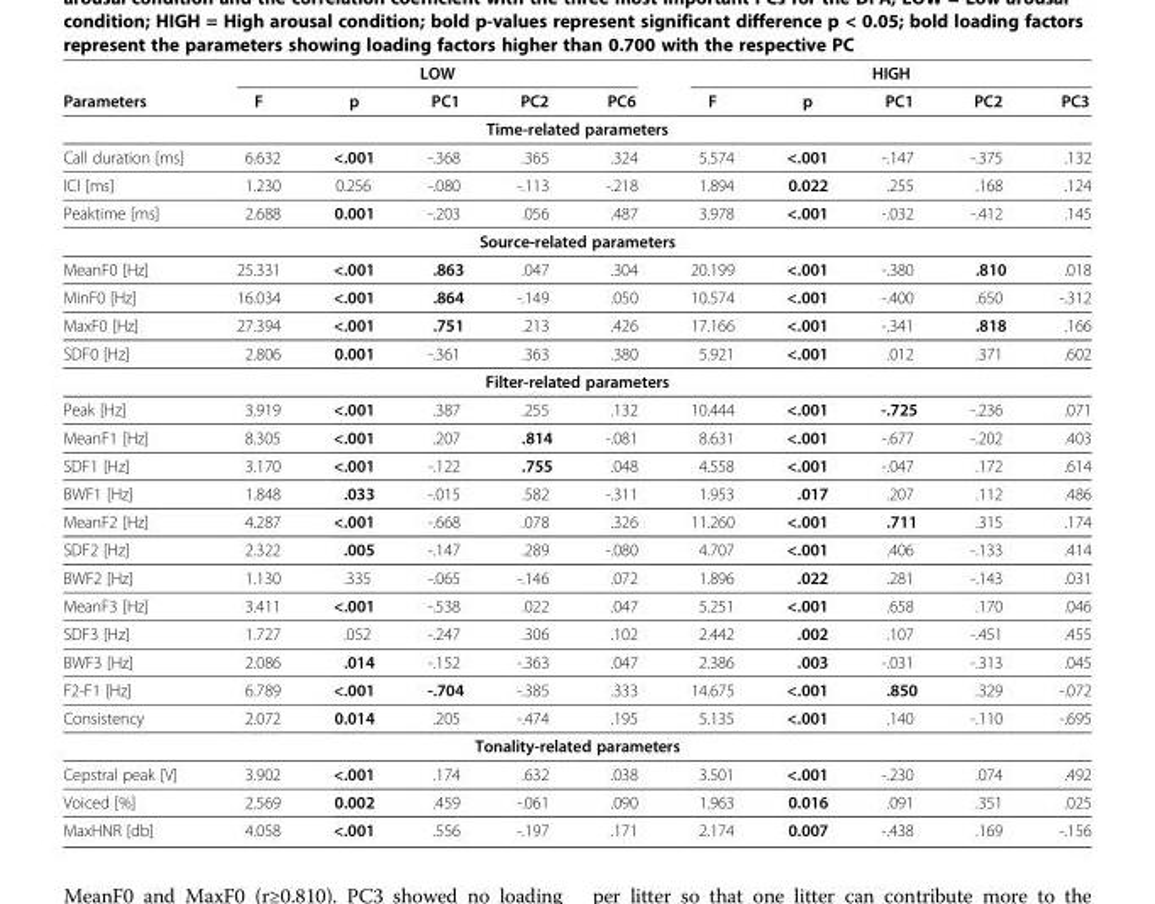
<table><thead><tr><td rowspan="2">Parameters</td><td colspan="5">LOW</td><td colspan="5">HIGH</td></tr><tr><td>F</td><td>p</td><td>PC1</td><td>PC2</td><td>PC6</td><td>F</td><td>p</td><td>PC1</td><td>PC2</td><td>PC3</td></tr></thead><tbody><tr><td colspan="11">Time-related parameters</td></tr><tr><td>Call duration [ms]</td><td>6.632</td><td>&lt;.001</td><td>-.368</td><td>.365</td><td>.324</td><td>5.574</td><td>&lt;.001</td><td>-.147</td><td>-.375</td><td>.132</td></tr><tr><td>ICI [ms]</td><td>1.230</td><td>0.256</td><td>-.080</td><td>-.113</td><td>-.218</td><td>1.894</td><td>0.022</td><td>.255</td><td>.168</td><td>.124</td></tr><tr><td>Peaktime [ms]</td><td>2.688</td><td>0.001</td><td>-.203</td><td>.056</td><td>.487</td><td>3.978</td><td>&lt;.001</td><td>-.032</td><td>-.412</td><td>.145</td></tr><tr><td colspan="11">Source-related parameters</td></tr><tr><td>MeanF0 [Hz]</td><td>25.331</td><td>&lt;.001</td><td>.863</td><td>.047</td><td>.304</td><td>20.199</td><td>&lt;.001</td><td>-.380</td><td>.810</td><td>.018</td></tr><tr><td>MinF0 [Hz]</td><td>16.034</td><td>&lt;.001</td><td>.864</td><td>-.149</td><td>.050</td><td>10.574</td><td>&lt;.001</td><td>-.400</td><td>.650</td><td>-.312</td></tr><tr><td>MaxF0 [Hz]</td><td>27.394</td><td>&lt;.001</td><td>.751</td><td>.213</td><td>.426</td><td>17.166</td><td>&lt;.001</td><td>-.341</td><td>.818</td><td>.166</td></tr><tr><td>SDF0 [Hz]</td><td>2.806</td><td>0.001</td><td>-.361</td><td>.363</td><td>.380</td><td>5.921</td><td>&lt;.001</td><td>.012</td><td>.371</td><td>.602</td></tr><tr><td colspan="11">Filter-related parameters</td></tr><tr><td>Peak [Hz]</td><td>3.919</td><td>&lt;.001</td><td>.387</td><td>.255</td><td>.132</td><td>10.444</td><td>&lt;.001</td><td>-.725</td><td>-.236</td><td>.071</td></tr><tr><td>MeanF1 [Hz]</td><td>8.305</td><td>&lt;.001</td><td>.207</td><td>.814</td><td>-.081</td><td>8.631</td><td>&lt;.001</td><td>-.677</td><td>-.202</td><td>.403</td></tr><tr><td>SDF1 [Hz]</td><td>3.170</td><td>&lt;.001</td><td>-.122</td><td>.755</td><td>.048</td><td>4.558</td><td>&lt;.001</td><td>-.047</td><td>.172</td><td>.614</td></tr><tr><td>BWF1 [Hz]</td><td>1.848</td><td>.033</td><td>-.015</td><td>.582</td><td>-.311</td><td>1.953</td><td>.017</td><td>.207</td><td>.112</td><td>.486</td></tr><tr><td>MeanF2 [Hz]</td><td>4.287</td><td>&lt;.001</td><td>-.668</td><td>.078</td><td>.326</td><td>11.260</td><td>&lt;.001</td><td>.711</td><td>.315</td><td>.174</td></tr><tr><td>SDF2 [Hz]</td><td>2.322</td><td>.005</td><td>-.147</td><td>.289</td><td>-.080</td><td>4.707</td><td>&lt;.001</td><td>.406</td><td>-.133</td><td>.414</td></tr><tr><td>BWF2 [Hz]</td><td>1.130</td><td>.335</td><td>-.065</td><td>-.146</td><td>.072</td><td>1.896</td><td>.022</td><td>.281</td><td>-.143</td><td>.031</td></tr><tr><td>MeanF3 [Hz]</td><td>3.411</td><td>&lt;.001</td><td>-.538</td><td>.022</td><td>.047</td><td>5.251</td><td>&lt;.001</td><td>.658</td><td>.170</td><td>.046</td></tr><tr><td>SDF3 [Hz]</td><td>1.727</td><td>.052</td><td>-.247</td><td>.306</td><td>.102</td><td>2.442</td><td>.002</td><td>.107</td><td>-.451</td><td>.455</td></tr><tr><td>BWF3 [Hz]</td><td>2.086</td><td>.014</td><td>-.152</td><td>-.363</td><td>.047</td><td>2.386</td><td>.003</td><td>-.031</td><td>-.313</td><td>.045</td></tr><tr><td>F2-F1 [Hz]</td><td>6.789</td><td>&lt;.001</td><td>-.704</td><td>-.385</td><td>.333</td><td>14.675</td><td>&lt;.001</td><td>.850</td><td>.329</td><td>-.072</td></tr><tr><td>Consistency</td><td>2.072</td><td>0.014</td><td>.205</td><td>-.474</td><td>.195</td><td>5.135</td><td>&lt;.001</td><td>.140</td><td>-.110</td><td>-.695</td></tr><tr><td colspan="11">Tonality-related parameters</td></tr><tr><td>Cepstral peak [V]</td><td>3.902</td><td>&lt;.001</td><td>.174</td><td>.632</td><td>.038</td><td>3.501</td><td>&lt;.001</td><td>-.230</td><td>.074</td><td>.492</td></tr><tr><td>Voiced [%]</td><td>2.569</td><td>0.002</td><td>.459</td><td>-.061</td><td>.090</td><td>1.963</td><td>0.016</td><td>.091</td><td>.351</td><td>.025</td></tr><tr><td>MaxHNR [db]</td><td>4.058</td><td>&lt;.001</td><td>.556</td><td>-.197</td><td>.171</td><td>2.174</td><td>0.007</td><td>-.438</td><td>.169</td><td>-.156</td></tr></tbody></table>